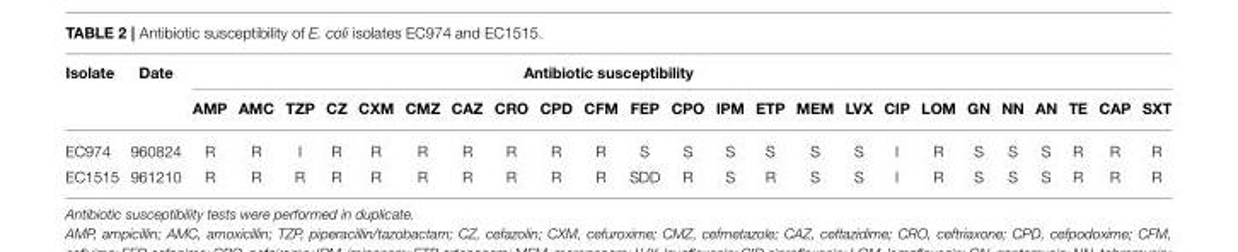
<table><thead><tr><td rowspan="2">Isolate</td><td rowspan="2">Date</td><td colspan="24">Antibiotic susceptibility</td></tr><tr><td>AMP</td><td>AMC</td><td>TZP</td><td>CZ</td><td>CXM</td><td>CMZ</td><td>CAZ</td><td>CRO</td><td>CPD</td><td>CFM</td><td>FEP</td><td>CPO</td><td>IPM</td><td>ETP</td><td>MEM</td><td>LVX</td><td>CIP</td><td>LOM</td><td>GN</td><td>NN</td><td>AN</td><td>TE</td><td>CAP</td><td>SXT</td></tr></thead><tbody><tr><td>EC974</td><td>960824</td><td>R</td><td>R</td><td>I</td><td>R</td><td>R</td><td>R</td><td>R</td><td>R</td><td>R</td><td>R</td><td>S</td><td>S</td><td>S</td><td>S</td><td>S</td><td>S</td><td>I</td><td>R</td><td>S</td><td>S</td><td>S</td><td>R</td><td>R</td><td>R</td></tr><tr><td>EC1515</td><td>961210</td><td>R</td><td>R</td><td>R</td><td>R</td><td>R</td><td>R</td><td>R</td><td>R</td><td>R</td><td>R</td><td>SDD</td><td>R</td><td>S</td><td>R</td><td>S</td><td>S</td><td>I</td><td>R</td><td>S</td><td>S</td><td>S</td><td>R</td><td>R</td><td>R</td></tr></tbody></table>